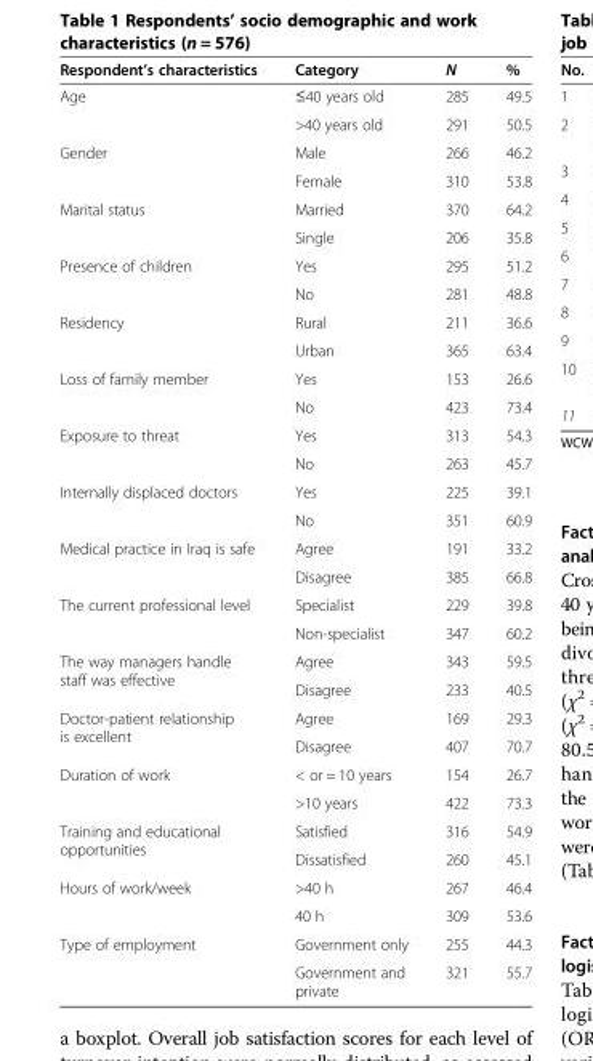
<table><thead><tr><td>Respondent’s characteristics</td><td>Category</td><td>N</td><td>%</td></tr></thead><tbody><tr><td rowspan="2">Age</td><td>≤40 years old</td><td>285</td><td>49.5</td></tr><tr><td>&gt;40 years old</td><td>291</td><td>50.5</td></tr><tr><td rowspan="2">Gender</td><td>Male</td><td>266</td><td>46.2</td></tr><tr><td>Female</td><td>310</td><td>53.8</td></tr><tr><td rowspan="2">Marital status</td><td>Married</td><td>370</td><td>64.2</td></tr><tr><td>Single</td><td>206</td><td>35.8</td></tr><tr><td rowspan="2">Presence of children</td><td>Yes</td><td>295</td><td>51.2</td></tr><tr><td>No</td><td>281</td><td>48.8</td></tr><tr><td rowspan="2">Residency</td><td>Rural</td><td>211</td><td>36.6</td></tr><tr><td>Urban</td><td>365</td><td>63.4</td></tr><tr><td rowspan="2">Loss of family member</td><td>Yes</td><td>153</td><td>26.6</td></tr><tr><td>No</td><td>423</td><td>73.4</td></tr><tr><td rowspan="2">Exposure to threat</td><td>Yes</td><td>313</td><td>54.3</td></tr><tr><td>No</td><td>263</td><td>45.7</td></tr><tr><td rowspan="2">Internally displaced doctors</td><td>Yes</td><td>225</td><td>39.1</td></tr><tr><td>No</td><td>351</td><td>60.9</td></tr><tr><td rowspan="2">Medical practice in Iraq is safe</td><td>Agree</td><td>191</td><td>33.2</td></tr><tr><td>Disagree</td><td>385</td><td>66.8</td></tr><tr><td rowspan="2">The current professional level</td><td>Specialist</td><td>229</td><td>39.8</td></tr><tr><td>Non-specialist</td><td>347</td><td>60.2</td></tr><tr><td rowspan="2">The way managers handle staff was effective</td><td>Agree</td><td>343</td><td>59.5</td></tr><tr><td>Disagree</td><td>233</td><td>40.5</td></tr><tr><td rowspan="2">Doctor-patient relationship is excellent</td><td>Agree</td><td>169</td><td>29.3</td></tr><tr><td>Disagree</td><td>407</td><td>70.7</td></tr><tr><td rowspan="2">Duration of work</td><td>&lt; or = 10 years</td><td>154</td><td>26.7</td></tr><tr><td>&gt;10 years</td><td>422</td><td>73.3</td></tr><tr><td rowspan="2">Training and educational opportunities</td><td>Satisfied</td><td>316</td><td>54.9</td></tr><tr><td>Dissatisfied</td><td>260</td><td>45.1</td></tr><tr><td rowspan="2">Hours of work/week</td><td>&gt;40 h</td><td>267</td><td>46.4</td></tr><tr><td>40 h</td><td>309</td><td>53.6</td></tr><tr><td rowspan="2">Type of employment</td><td>Government only</td><td>255</td><td>44.3</td></tr><tr><td>Government and private</td><td>321</td><td>55.7</td></tr></tbody></table>